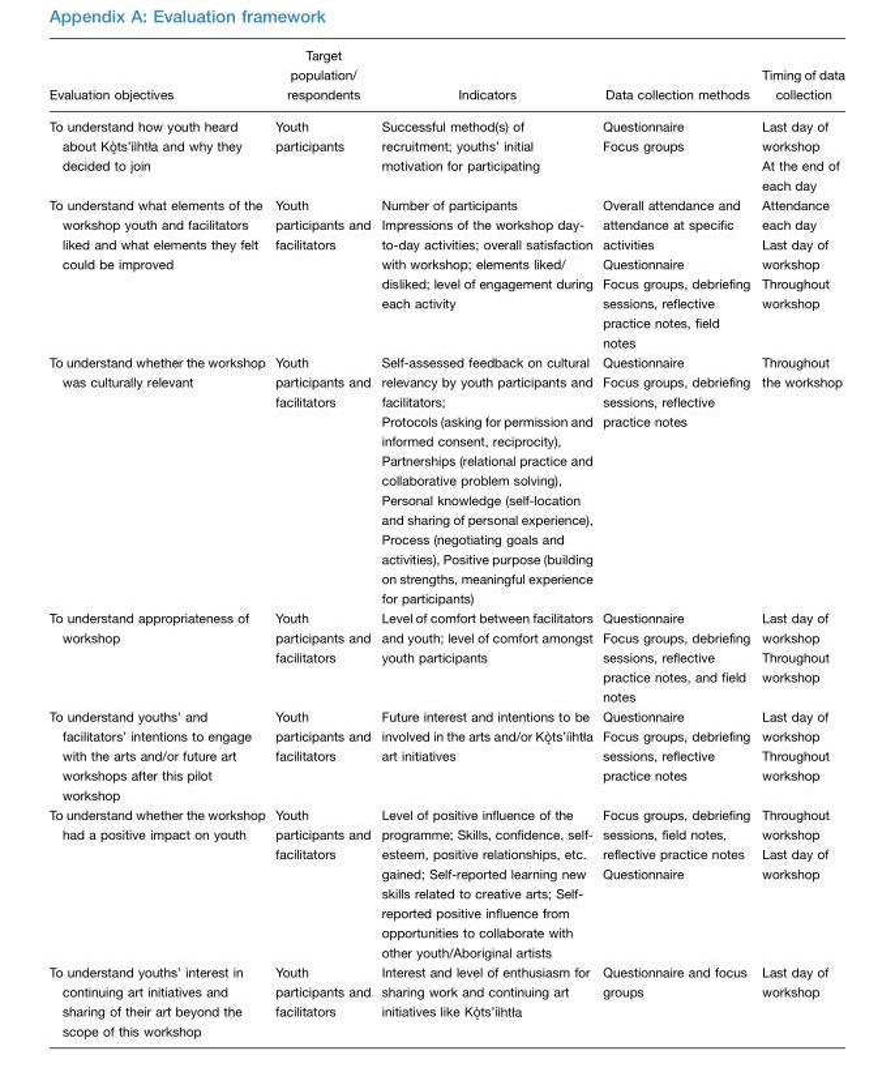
<table><thead><tr><td>Evaluation objectives</td><td>Target population/ respondents</td><td>Indicators</td><td>Data collection methods</td><td>Timing of data collection</td></tr></thead><tbody><tr><td>To understand how youth heard about Ko`˛ ts’iı`htła and why they decided to join</td><td>Youth participants</td><td>Successful method(s) of recruitment; youths’ initial motivation for participating</td><td>Questionnaire Focus groups</td><td>Last day of workshop At the end of each day</td></tr><tr><td>To understand what elements of the workshop youth and facilitators liked and what elements they felt could be improved</td><td>Youth participants and facilitators</td><td>Number of participants Impressions of the workshop day- to-day activities; overall satisfaction with workshop; elements liked/ disliked; level of engagement during each activity</td><td>Overall attendance and attendance at specific activities Questionnaire Focus groups, debriefing sessions, reflective practice notes, field notes</td><td>Attendance each day Last day of workshop Throughout workshop</td></tr><tr><td>To understand whether the workshop was culturally relevant</td><td>Youth participants and facilitators</td><td>Self-assessed feedback on cultural relevancy by youth participants and facilitators; Protocols (asking for permission and informed consent, reciprocity), Partnerships (relational practice and collaborative problem solving), Personal knowledge (self-location and sharing of personal experience), Process (negotiating goals and activities), Positive purpose (building on strengths, meaningful experience for participants)</td><td>Questionnaire Focus groups, debriefing sessions, reflective practice notes</td><td>Throughout the workshop</td></tr><tr><td>To understand appropriateness of workshop</td><td>Youth participants and facilitators</td><td>Level of comfort between facilitators and youth; level of comfort amongst youth participants</td><td>Questionnaire Focus groups, debriefing sessions, reflective practice notes, and field notes</td><td>Last day of workshop Throughout workshop</td></tr><tr><td>To understand youths’ and facilitators’ intentions to engage with the arts and/or future art workshops after this pilot workshop</td><td>Youth participants and facilitators</td><td>Future interest and intentions to be involved in the arts and/or Ko`˛ ts’iı`htła art initiatives</td><td>Questionnaire Focus groups, debriefing sessions, reflective practice notes</td><td>Last day of workshop Throughout workshop</td></tr><tr><td>To understand whether the workshop had a positive impact on youth</td><td>Youth participants and facilitators</td><td>Level of positive influence of the programme; Skills, confidence, self- esteem, positive relationships, etc. gained; Self-reported learning new skills related to creative arts; Self- reported positive influence from opportunities to collaborate with other youth/Aboriginal artists</td><td>Focus groups, debriefing sessions, field notes, reflective practice notes Questionnaire</td><td>Throughout workshop Last day of workshop</td></tr><tr><td>To understand youths’ interest in continuing art initiatives and sharing of their art beyond the scope of this workshop</td><td>Youth participants and facilitators</td><td>Interest and level of enthusiasm for sharing work and continuing art initiatives like Ko`˛ ts’iı`htła</td><td>Questionnaire and focus groups</td><td>Last day of workshop</td></tr></tbody></table>